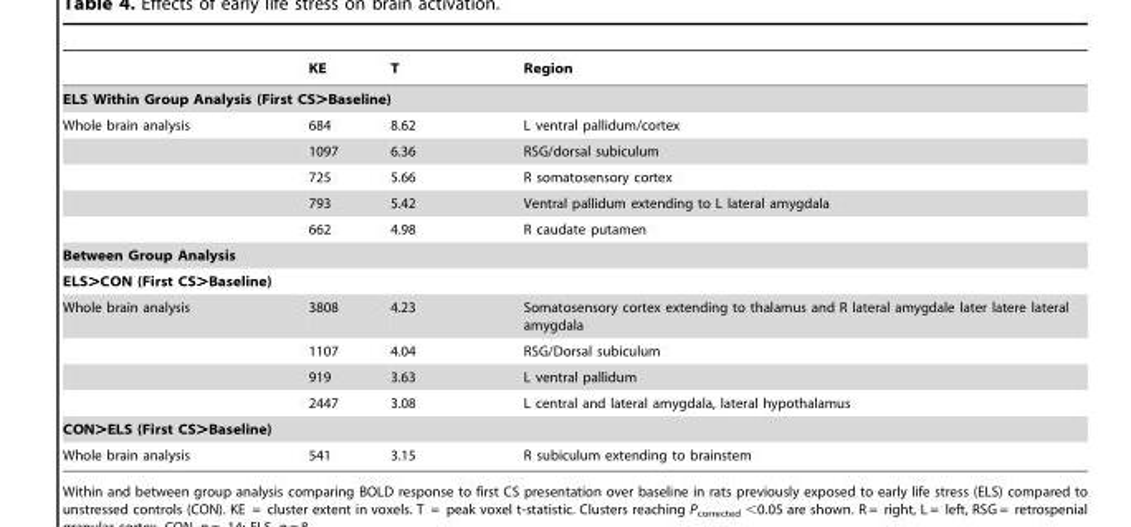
<table><thead><tr><td></td><td>KE</td><td>T</td><td>Region</td></tr></thead><tbody><tr><td colspan="4">ELS Within Group Analysis (First CS&gt;Baseline)</td></tr><tr><td rowspan="5">Whole brain analysis</td><td>684</td><td>8.62</td><td>L ventral pallidum/cortex</td></tr><tr><td>1097</td><td>6.36</td><td>RSG/dorsal subiculum</td></tr><tr><td>725</td><td>5.66</td><td>R somatosensory cortex</td></tr><tr><td>793</td><td>5.42</td><td>Ventral pallidum extending to L lateral amygdala</td></tr><tr><td>662</td><td>4.98</td><td>R caudate putamen</td></tr><tr><td colspan="4">Between Group Analysis</td></tr><tr><td colspan="4">ELS&gt;CON (First CS&gt;Baseline)</td></tr><tr><td rowspan="4">Whole brain analysis</td><td>3808</td><td>4.23</td><td>Somatosensory cortex extending to thalamus and R lateral amygdale later latere lateral amygdala</td></tr><tr><td>1107</td><td>4.04</td><td>RSG/Dorsal subiculum</td></tr><tr><td>919</td><td>3.63</td><td>L ventral pallidum</td></tr><tr><td>2447</td><td>3.08</td><td>L central and lateral amygdala, lateral hypothalamus</td></tr><tr><td colspan="4">CON&gt;ELS (First CS&gt;Baseline)</td></tr><tr><td>Whole brain analysis</td><td>541</td><td>3.15</td><td>R subiculum extending to brainstem</td></tr></tbody></table>